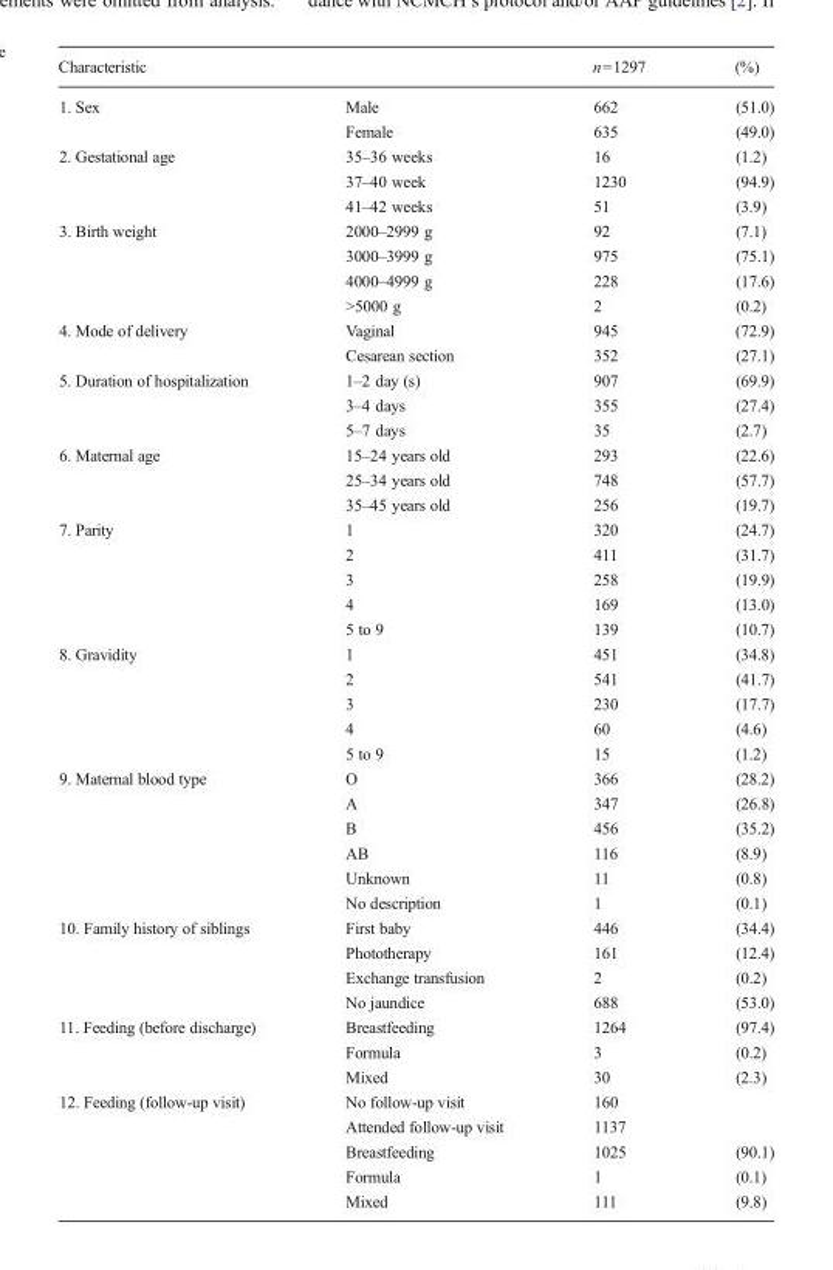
<table><thead><tr><td>Characteristic</td><td></td><td>n=1297</td><td>(%)</td></tr></thead><tbody><tr><td rowspan="2">1. Sex</td><td>Male</td><td>662</td><td>(51.0)</td></tr><tr><td>Female</td><td>635</td><td>(49.0)</td></tr><tr><td rowspan="3">2. Gestational age</td><td>35–36 weeks</td><td>16</td><td>(1.2)</td></tr><tr><td>37–40 week</td><td>1230</td><td>(94.9)</td></tr><tr><td>41–42 weeks</td><td>51</td><td>(3.9)</td></tr><tr><td rowspan="4">3. Birth weight</td><td>2000–2999 g</td><td>92</td><td>(7.1)</td></tr><tr><td>3000–3999 g</td><td>975</td><td>(75.1)</td></tr><tr><td>4000–4999 g</td><td>228</td><td>(17.6)</td></tr><tr><td>&gt;5000 g</td><td>2</td><td>(0.2)</td></tr><tr><td rowspan="2">4. Mode of delivery</td><td>Vaginal</td><td>945</td><td>(72.9)</td></tr><tr><td>Cesarean section</td><td>352</td><td>(27.1)</td></tr><tr><td rowspan="3">5. Duration of hospitalization</td><td>1–2 day (s)</td><td>907</td><td>(69.9)</td></tr><tr><td>3–4 days</td><td>355</td><td>(27.4)</td></tr><tr><td>5–7 days</td><td>35</td><td>(2.7)</td></tr><tr><td rowspan="3">6. Maternal age</td><td>15–24 years old</td><td>293</td><td>(22.6)</td></tr><tr><td>25–34 years old</td><td>748</td><td>(57.7)</td></tr><tr><td>35–45 years old</td><td>256</td><td>(19.7)</td></tr><tr><td rowspan="5">7. Parity</td><td>1</td><td>320</td><td>(24.7)</td></tr><tr><td>2</td><td>411</td><td>(31.7)</td></tr><tr><td>3</td><td>258</td><td>(19.9)</td></tr><tr><td>4</td><td>169</td><td>(13.0)</td></tr><tr><td>5 to 9</td><td>139</td><td>(10.7)</td></tr><tr><td rowspan="5">8. Gravidity</td><td>1</td><td>451</td><td>(34.8)</td></tr><tr><td>2</td><td>541</td><td>(41.7)</td></tr><tr><td>3</td><td>230</td><td>(17.7)</td></tr><tr><td>4</td><td>60</td><td>(4.6)</td></tr><tr><td>5 to 9</td><td>15</td><td>(1.2)</td></tr><tr><td rowspan="6">9. Maternal blood type</td><td>O</td><td>366</td><td>(28.2)</td></tr><tr><td>A</td><td>347</td><td>(26.8)</td></tr><tr><td>B</td><td>456</td><td>(35.2)</td></tr><tr><td>AB</td><td>116</td><td>(8.9)</td></tr><tr><td>Unknown</td><td>11</td><td>(0.8)</td></tr><tr><td>No description</td><td>1</td><td>(0.1)</td></tr><tr><td rowspan="4">10. Family history of siblings</td><td>First baby</td><td>446</td><td>(34.4)</td></tr><tr><td>Phototherapy</td><td>161</td><td>(12.4)</td></tr><tr><td>Exchange transfusion</td><td>2</td><td>(0.2)</td></tr><tr><td>No jaundice</td><td>688</td><td>(53.0)</td></tr><tr><td rowspan="3">11. Feeding (before discharge)</td><td>Breastfeeding</td><td>1264</td><td>(97.4)</td></tr><tr><td>Formula</td><td>3</td><td>(0.2)</td></tr><tr><td>Mixed</td><td>30</td><td>(2.3)</td></tr><tr><td rowspan="5">12. Feeding (follow-up visit)</td><td>No follow-up visit</td><td>160</td><td></td></tr><tr><td>Attended follow-up visit</td><td>1137</td><td></td></tr><tr><td>Breastfeeding</td><td>1025</td><td>(90.1)</td></tr><tr><td>Formula</td><td>1</td><td>(0.1)</td></tr><tr><td>Mixed</td><td>111</td><td>(9.8)</td></tr></tbody></table>